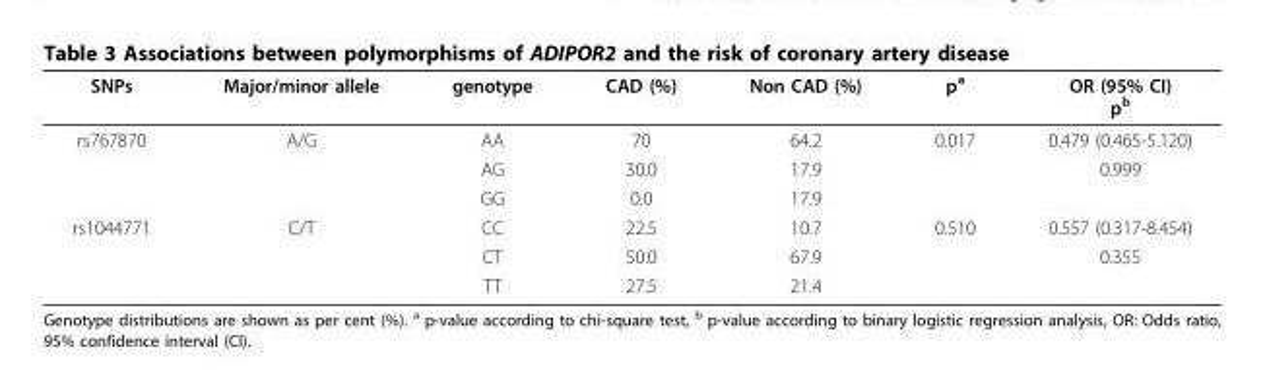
<table><thead><tr><td>SNPs</td><td>Major/minor allele</td><td>genotype</td><td>CAD (%)</td><td>Non CAD (%)</td><td>p<sup>a</sup></td><td>OR (95% CI) p<sup>b</sup></td></tr></thead><tbody><tr><td rowspan="3">rs767870</td><td>A/G</td><td>AA</td><td>70</td><td>64.2</td><td>0.017</td><td>0.479 (0.465-5.120)</td></tr><tr><td></td><td>AG</td><td>30.0</td><td>17.9</td><td></td><td>0.999</td></tr><tr><td></td><td>GG</td><td>0.0</td><td>17.9</td><td></td><td></td></tr><tr><td rowspan="3">rs1044771</td><td>C/T</td><td>CC</td><td>22.5</td><td>10.7</td><td>0.510</td><td>0.557 (0.317-8.454)</td></tr><tr><td></td><td>CT</td><td>50.0</td><td>67.9</td><td></td><td>0.355</td></tr><tr><td></td><td>TT</td><td>27.5</td><td>21.4</td><td></td><td></td></tr></tbody></table>